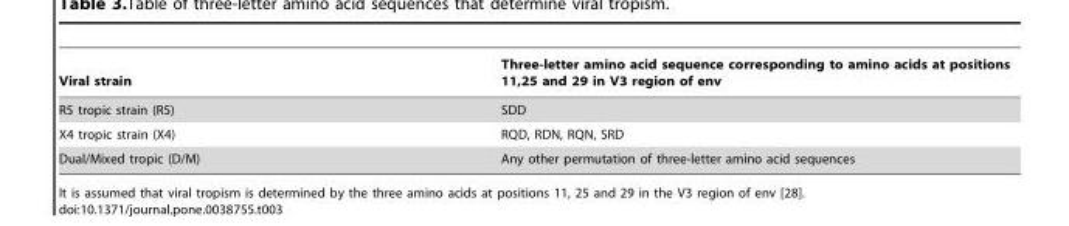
<table><thead><tr><td>Viral strain</td><td>Three-letter amino acid sequence corresponding to amino acids at positions 11,25 and 29 in V3 region of env</td></tr></thead><tbody><tr><td>R5 tropic strain (R5)</td><td>SDD</td></tr><tr><td>X4 tropic strain (X4)</td><td>RQD, RDN, RQN, SRD</td></tr><tr><td>Dual/Mixed tropic (D/M)</td><td>Any other permutation of three-letter amino acid sequences</td></tr></tbody></table>